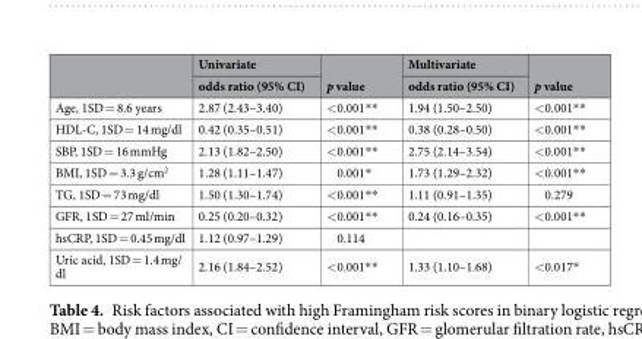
<table><thead><tr><td rowspan="2"></td><td rowspan="2">Univariate odds ratio (95% CI)</td><td rowspan="2">p value</td><td rowspan="2">Multivariate odds ratio (95% CI)</td><td rowspan="2">p value</td></tr><tr></tr></thead><tbody><tr><td>Age, 1SD = 8.6 years</td><td>2.87 (2.43–3.40)</td><td>&lt;0.001**</td><td>1.94 (1.50–2.50)</td><td>&lt;0.001**</td></tr><tr><td>HDL-C, 1SD = 14 mg/dl</td><td>0.42 (0.35–0.51)</td><td>&lt;0.001**</td><td>0.38 (0.28–0.50)</td><td>&lt;0.001**</td></tr><tr><td>SBP, 1SD = 16 mmHg</td><td>2.13 (1.82–2.50)</td><td>&lt;0.001**</td><td>2.75 (2.14–3.54)</td><td>&lt;0.001**</td></tr><tr><td>BMI, 1SD = 3.3 g/cm<sup>2</sup></td><td>1.28 (1.11–1.47)</td><td>0.001*</td><td>1.73 (1.29–2.32)</td><td>&lt;0.001**</td></tr><tr><td>TG, 1SD = 73 mg/dl</td><td>1.50 (1.30–1.74)</td><td>&lt;0.001**</td><td>1.11 (0.91–1.35)</td><td>0.279</td></tr><tr><td>GFR, 1SD = 27 ml/min</td><td>0.25 (0.20–0.32)</td><td>&lt;0.001**</td><td>0.24 (0.16–0.35)</td><td>&lt;0.001**</td></tr><tr><td>hsCRP, 1SD = 0.45 mg/dl</td><td>1.12 (0.97–1.29)</td><td>0.114</td><td></td><td></td></tr><tr><td>Uric acid, 1SD = 1.4 mg/ dl</td><td>2.16 (1.84–2.52)</td><td>&lt;0.001**</td><td>1.33 (1.10–1.68)</td><td>&lt;0.017*</td></tr></tbody></table>